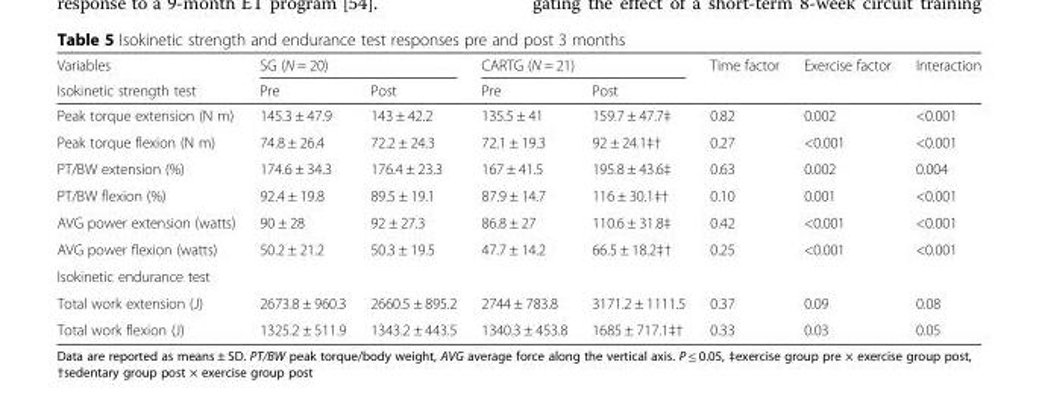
<table><thead><tr><td rowspan="2">Variables Isokinetic strength test</td><td colspan="2">SG (N = 20)</td><td colspan="2">CARTG (N = 21)</td><td rowspan="2">Time factor</td><td rowspan="2">Exercise factor</td><td rowspan="2">Interaction</td></tr><tr><td>Pre</td><td>Post</td><td>Pre</td><td>Post</td></tr></thead><tbody><tr><td>Peak torque extension (N m)</td><td>145.3 ± 47.9</td><td>143 ± 42.2</td><td>135.5 ± 41</td><td>159.7 ± 47.7‡</td><td>0.82</td><td>0.002</td><td>&lt;0.001</td></tr><tr><td>Peak torque flexion (N m)</td><td>74.8 ± 26.4</td><td>72.2 ± 24.3</td><td>72.1 ± 19.3</td><td>92 ± 24.1‡†</td><td>0.27</td><td>&lt;0.001</td><td>&lt;0.001</td></tr><tr><td>PT/BW extension (%)</td><td>174.6 ± 34.3</td><td>176.4 ± 23.3</td><td>167 ± 41.5</td><td>195.8 ± 43.6‡</td><td>0.63</td><td>0.002</td><td>0.004</td></tr><tr><td>PT/BW flexion (%)</td><td>92.4 ± 19.8</td><td>89.5 ± 19.1</td><td>87.9 ± 14.7</td><td>116 ± 30.1‡†</td><td>0.10</td><td>0.001</td><td>&lt;0.001</td></tr><tr><td>AVG power extension (watts)</td><td>90 ± 28</td><td>92 ± 27.3</td><td>86.8 ± 27</td><td>110.6 ± 31.8‡</td><td>0.42</td><td>&lt;0.001</td><td>&lt;0.001</td></tr><tr><td>AVG power flexion (watts)</td><td>50.2 ± 21.2</td><td>50.3 ± 19.5</td><td>47.7 ± 14.2</td><td>66.5 ± 18.2‡†</td><td>0.25</td><td>&lt;0.001</td><td>&lt;0.001</td></tr><tr><td colspan="8">Isokinetic endurance test</td></tr><tr><td>Total work extension (J)</td><td>2673.8 ± 960.3</td><td>2660.5 ± 895.2</td><td>2744 ± 783.8</td><td>3171.2 ± 1111.5</td><td>0.37</td><td>0.09</td><td>0.08</td></tr><tr><td>Total work flexion (J)</td><td>1325.2 ± 511.9</td><td>1343.2 ± 443.5</td><td>1340.3 ± 453.8</td><td>1685 ± 717.1‡†</td><td>0.33</td><td>0.03</td><td>0.05</td></tr></tbody></table>